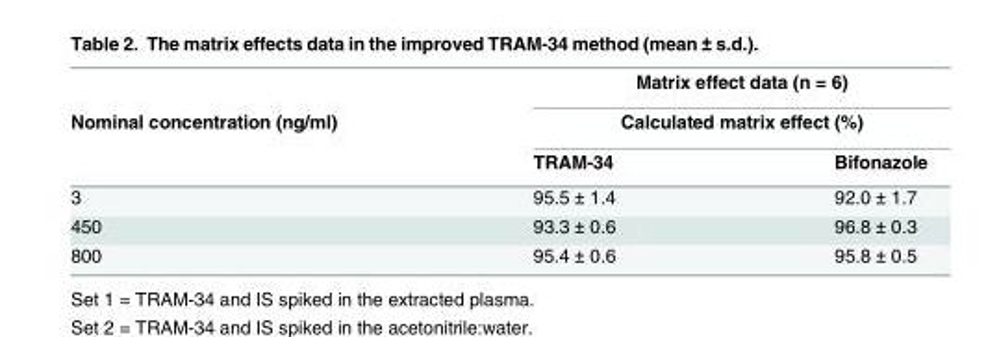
<table><thead><tr><td rowspan="3">Nominal concentration (ng/ml)</td><td rowspan="2" colspan="2">Matrix effect data (n = 6) Calculated matrix effect (%)</td></tr><tr></tr><tr><td>TRAM-34</td><td>Bifonazole</td></tr></thead><tbody><tr><td>3</td><td>95.5 ± 1.4</td><td>92.0 ± 1.7</td></tr><tr><td>450</td><td>93.3 ± 0.6</td><td>96.8 ± 0.3</td></tr><tr><td>800</td><td>95.4 ± 0.6</td><td>95.8 ± 0.5</td></tr></tbody></table>